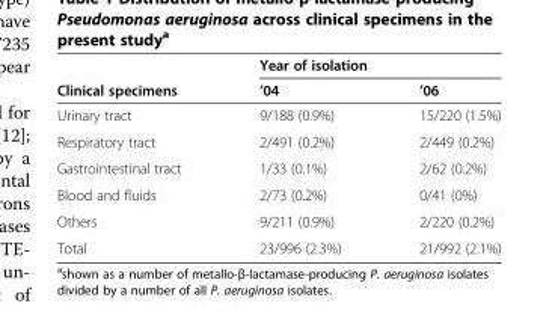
<table><thead><tr><td rowspan="2">Clinical specimens</td><td colspan="2">Year of isolation</td></tr><tr><td>’04</td><td>’06</td></tr></thead><tbody><tr><td>Urinary tract</td><td>9/188 (0.9%)</td><td>15/220 (1.5%)</td></tr><tr><td>Respiratory tract</td><td>2/491 (0.2%)</td><td>2/449 (0.2%)</td></tr><tr><td>Gastrointestinal tract</td><td>1/33 (0.1%)</td><td>2/62 (0.2%)</td></tr><tr><td>Blood and fluids</td><td>2/73 (0.2%)</td><td>0/41 (0%)</td></tr><tr><td>Others</td><td>9/211 (0.9%)</td><td>2/220 (0.2%)</td></tr><tr><td>Total</td><td>23/996 (2.3%)</td><td>21/992 (2.1%)</td></tr></tbody></table>